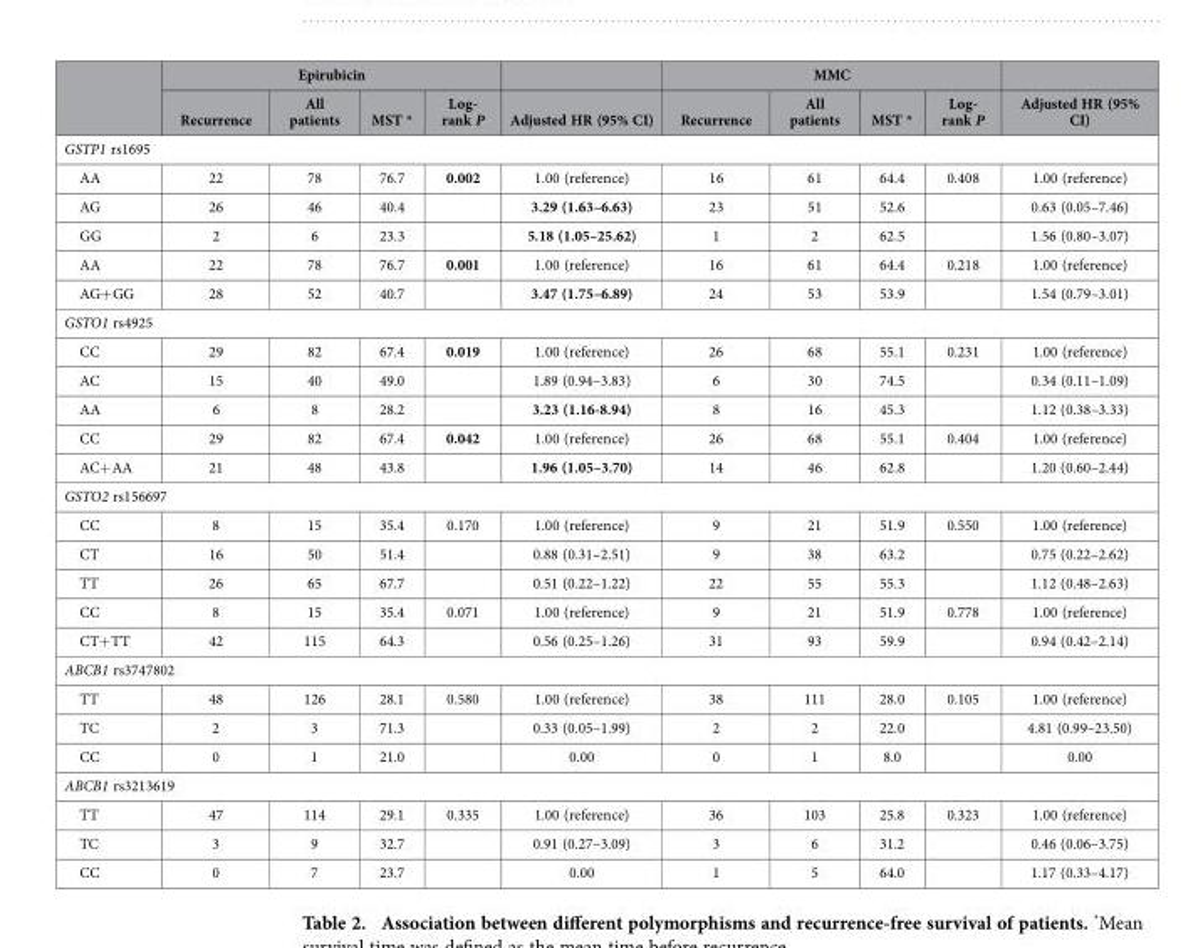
<table><thead><tr><td rowspan="2"></td><td colspan="5">Epirubicin</td><td colspan="5">MMC</td></tr><tr><td>Recurrence</td><td>All patients</td><td>MST *</td><td>Log- rank P</td><td>Adjusted HR (95% CI)</td><td>Recurrence</td><td>All patients</td><td>MST *</td><td>Log- rank P</td><td>Adjusted HR (95% CI)</td></tr></thead><tbody><tr><td colspan="11">GSTP1 rs1695</td></tr><tr><td>AA</td><td>22</td><td>78</td><td>76.7</td><td>0.002</td><td>1.00 (reference)</td><td>16</td><td>61</td><td>64.4</td><td>0.408</td><td>1.00 (reference)</td></tr><tr><td>AG</td><td>26</td><td>46</td><td>40.4</td><td></td><td>3.29 (1.63–6.63)</td><td>23</td><td>51</td><td>52.6</td><td></td><td>0.63 (0.05–7.46)</td></tr><tr><td>GG</td><td>2</td><td>6</td><td>23.3</td><td></td><td>5.18 (1.05–25.62)</td><td>1</td><td>2</td><td>62.5</td><td></td><td>1.56 (0.80–3.07)</td></tr><tr><td>AA</td><td>22</td><td>78</td><td>76.7</td><td>0.001</td><td>1.00 (reference)</td><td>16</td><td>61</td><td>64.4</td><td>0.218</td><td>1.00 (reference)</td></tr><tr><td>AG+ GG</td><td>28</td><td>52</td><td>40.7</td><td></td><td>3.47 (1.75–6.89)</td><td>24</td><td>53</td><td>53.9</td><td></td><td>1.54 (0.79–3.01)</td></tr><tr><td colspan="11">GSTO1 rs4925</td></tr><tr><td>CC</td><td>29</td><td>82</td><td>67.4</td><td>0.019</td><td>1.00 (reference)</td><td>26</td><td>68</td><td>55.1</td><td>0.231</td><td>1.00 (reference)</td></tr><tr><td>AC</td><td>15</td><td>40</td><td>49.0</td><td></td><td>1.89 (0.94–3.83)</td><td>6</td><td>30</td><td>74.5</td><td></td><td>0.34 (0.11–1.09)</td></tr><tr><td>AA</td><td>6</td><td>8</td><td>28.2</td><td></td><td>3.23 (1.16-8.94)</td><td>8</td><td>16</td><td>45.3</td><td></td><td>1.12 (0.38–3.33)</td></tr><tr><td>CC</td><td>29</td><td>82</td><td>67.4</td><td>0.042</td><td>1.00 (reference)</td><td>26</td><td>68</td><td>55.1</td><td>0.404</td><td>1.00 (reference)</td></tr><tr><td>AC+ AA</td><td>21</td><td>48</td><td>43.8</td><td></td><td>1.96 (1.05–3.70)</td><td>14</td><td>46</td><td>62.8</td><td></td><td>1.20 (0.60–2.44)</td></tr><tr><td colspan="11">GSTO2 rs156697</td></tr><tr><td>CC</td><td>8</td><td>15</td><td>35.4</td><td>0.170</td><td>1.00 (reference)</td><td>9</td><td>21</td><td>51.9</td><td>0.550</td><td>1.00 (reference)</td></tr><tr><td>CT</td><td>16</td><td>50</td><td>51.4</td><td></td><td>0.88 (0.31–2.51)</td><td>9</td><td>38</td><td>63.2</td><td></td><td>0.75 (0.22–2.62)</td></tr><tr><td>TT</td><td>26</td><td>65</td><td>67.7</td><td></td><td>0.51 (0.22–1.22)</td><td>22</td><td>55</td><td>55.3</td><td></td><td>1.12 (0.48–2.63)</td></tr><tr><td>CC</td><td>8</td><td>15</td><td>35.4</td><td>0.071</td><td>1.00 (reference)</td><td>9</td><td>21</td><td>51.9</td><td>0.778</td><td>1.00 (reference)</td></tr><tr><td>CT+ TT</td><td>42</td><td>115</td><td>64.3</td><td></td><td>0.56 (0.25–1.26)</td><td>31</td><td>93</td><td>59.9</td><td></td><td>0.94 (0.42–2.14)</td></tr><tr><td colspan="11">ABCB1 rs3747802</td></tr><tr><td>TT</td><td>48</td><td>126</td><td>28.1</td><td>0.580</td><td>1.00 (reference)</td><td>38</td><td>111</td><td>28.0</td><td>0.105</td><td>1.00 (reference)</td></tr><tr><td>TC</td><td>2</td><td>3</td><td>71.3</td><td></td><td>0.33 (0.05–1.99)</td><td>2</td><td>2</td><td>22.0</td><td></td><td>4.81 (0.99–23.50)</td></tr><tr><td>CC</td><td>0</td><td>1</td><td>21.0</td><td></td><td>0.00</td><td>0</td><td>1</td><td>8.0</td><td></td><td>0.00</td></tr><tr><td colspan="11">ABCB1 rs3213619</td></tr><tr><td>TT</td><td>47</td><td>114</td><td>29.1</td><td>0.335</td><td>1.00 (reference)</td><td>36</td><td>103</td><td>25.8</td><td>0.323</td><td>1.00 (reference)</td></tr><tr><td>TC</td><td>3</td><td>9</td><td>32.7</td><td></td><td>0.91 (0.27–3.09)</td><td>3</td><td>6</td><td>31.2</td><td></td><td>0.46 (0.06–3.75)</td></tr><tr><td>CC</td><td>0</td><td>7</td><td>23.7</td><td></td><td>0.00</td><td>1</td><td>5</td><td>64.0</td><td></td><td>1.17 (0.33–4.17)</td></tr></tbody></table>